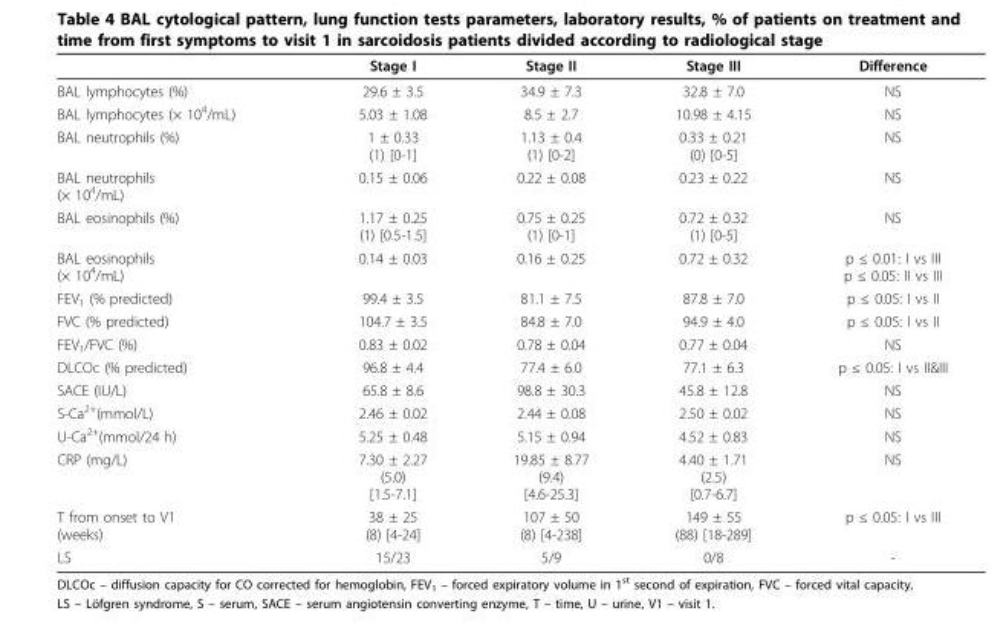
<table><thead><tr><td></td><td>Stage I</td><td>Stage II</td><td>Stage III</td><td>Difference</td></tr></thead><tbody><tr><td>BAL lymphocytes (%)</td><td>29.6 ± 3.5</td><td>34.9 ± 7.3</td><td>32.8 ± 7.0</td><td>NS</td></tr><tr><td>BAL lymphocytes (× 10<sup>4</sup>/mL)</td><td>5.03 ± 1.08</td><td>8.5 ± 2.7</td><td>10.98 ± 4.15</td><td>NS</td></tr><tr><td>BAL neutrophils (%)</td><td>1 ± 0.33 (1) [0-1]</td><td>1.13 ± 0.4 (1) [0-2]</td><td>0.33 ± 0.21 (0) [0-5]</td><td>NS</td></tr><tr><td>BAL neutrophils (× 10<sup>4</sup>/mL)</td><td>0.15 ± 0.06</td><td>0.22 ± 0.08</td><td>0.23 ± 0.22</td><td>NS</td></tr><tr><td>BAL eosinophils (%)</td><td>1.17 ± 0.25 (1) [0.5-1.5]</td><td>0.75 ± 0.25 (1) [0-1]</td><td>0.72 ± 0.32 (1) [0-5]</td><td>NS</td></tr><tr><td>BAL eosinophils (× 10<sup>4</sup>/mL)</td><td>0.14 ± 0.03</td><td>0.16 ± 0.25</td><td>0.72 ± 0.32</td><td>p ≤ 0.01: I vs III p ≤ 0.05: II vs III</td></tr><tr><td>FEV<sub>1</sub> (% predicted)</td><td>99.4 ± 3.5</td><td>81.1 ± 7.5</td><td>87.8 ± 7.0</td><td>p ≤ 0.05: I vs II</td></tr><tr><td>FVC (% predicted)</td><td>104.7 ± 3.5</td><td>84.8 ± 7.0</td><td>94.9 ± 4.0</td><td>p ≤ 0.05: I vs II</td></tr><tr><td>FEV<sub>1</sub>/FVC (%)</td><td>0.83 ± 0.02</td><td>0.78 ± 0.04</td><td>0.77 ± 0.04</td><td>NS</td></tr><tr><td>DLCOc (% predicted)</td><td>96.8 ± 4.4</td><td>77.4 ± 6.0</td><td>77.1 ± 6.3</td><td>p ≤ 0.05: I vs II&amp;III</td></tr><tr><td>SACE (IU/L)</td><td>65.8 ± 8.6</td><td>98.8 ± 30.3</td><td>45.8 ± 12.8</td><td>NS</td></tr><tr><td>S-Ca<sup>2+</sup>(mmol/L)</td><td>2.46 ± 0.02</td><td>2.44 ± 0.08</td><td>2.50 ± 0.02</td><td>NS</td></tr><tr><td>U-Ca<sup>2+</sup>(mmol/24 h)</td><td>5.25 ± 0.48</td><td>5.15 ± 0.94</td><td>4.52 ± 0.83</td><td>NS</td></tr><tr><td>CRP (mg/L)</td><td>7.30 ± 2.27 (5.0) [1.5-7.1]</td><td>19.85 ± 8.77 (9.4) [4.6-25.3]</td><td>4.40 ± 1.71 (2.5) [0.7-6.7]</td><td>NS</td></tr><tr><td>T from onset to V1 (weeks)</td><td>38 ± 25 (8) [4-24]</td><td>107 ± 50 (8) [4-238]</td><td>149 ± 55 (88) [18-289]</td><td>p ≤ 0.05: I vs III</td></tr><tr><td>LS</td><td>15/23</td><td>5/9</td><td>0/8</td><td>-</td></tr></tbody></table>